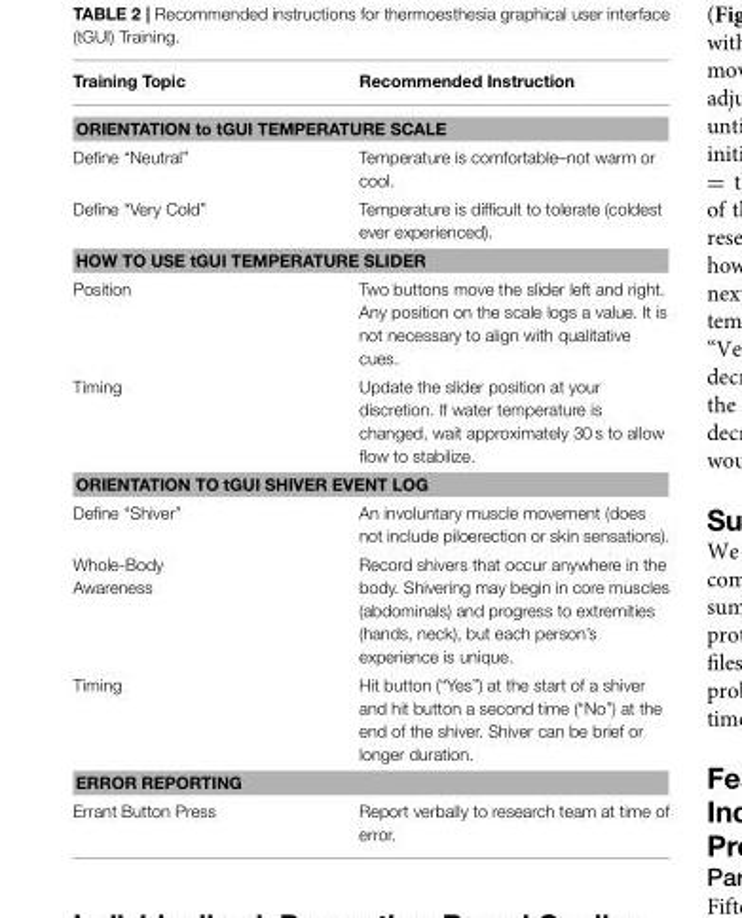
<table><thead><tr><td>Training Topic</td><td>Recommended Instruction</td></tr></thead><tbody><tr><td colspan="2">ORIENTATION to tGUI TEMPERATURE SCALE</td></tr><tr><td>Define “Neutral”</td><td>Temperature is comfortable–not warm or cool.</td></tr><tr><td>Define “Very Cold”</td><td>Temperature is difficult to tolerate (coldest ever experienced).</td></tr><tr><td colspan="2">HOW TO USE tGUI TEMPERATURE SLIDER</td></tr><tr><td>Position</td><td>Two buttons move the slider left and right. Any position on the scale logs a value. It is not necessary to align with qualitative cues.</td></tr><tr><td>Timing</td><td>Update the slider position at your discretion. If water temperature is changed, wait approximately 30 s to allow flow to stabilize.</td></tr><tr><td colspan="2">ORIENTATION TO tGUI SHIVER EVENT LOG</td></tr><tr><td>Define “Shiver”</td><td>An involuntary muscle movement (does not include piloerection or skin sensations).</td></tr><tr><td>Whole-Body Awareness</td><td>Record shivers that occur anywhere in the body. Shivering may begin in core muscles (abdominals) and progress to extremities (hands, neck), but each person’s experience is unique.</td></tr><tr><td>Timing</td><td>Hit button (“Yes”) at the start of a shiver and hit button a second time (“No”) at the end of the shiver. Shiver can be brief or longer duration.</td></tr><tr><td colspan="2">ERROR REPORTING</td></tr><tr><td>Errant Button Press</td><td>Report verbally to research team at time of error.</td></tr></tbody></table>